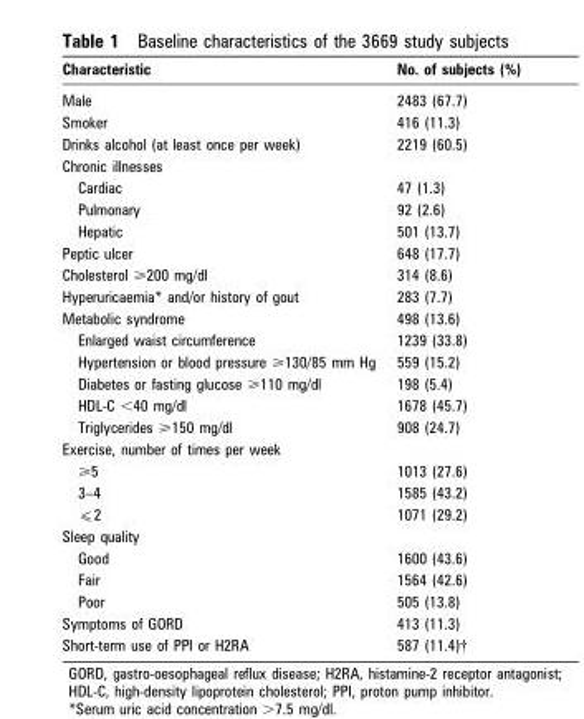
<table><thead><tr><td>Characteristic</td><td>No. of subjects (%)</td></tr></thead><tbody><tr><td>Male</td><td>2483 (67.7)</td></tr><tr><td>Smoker</td><td>416 (11.3)</td></tr><tr><td>Drinks alcohol (at least once per week)</td><td>2219 (60.5)</td></tr><tr><td colspan="2">Chronic illnesses</td></tr><tr><td>Cardiac</td><td>47 (1.3)</td></tr><tr><td>Pulmonary</td><td>92 (2.6)</td></tr><tr><td>Hepatic</td><td>501 (13.7)</td></tr><tr><td>Peptic ulcer</td><td>648 (17.7)</td></tr><tr><td>Cholesterol &gt;200 mg/dl</td><td>314 (8.6)</td></tr><tr><td>Hyperuricaemia* and/or history of gout</td><td>283 (7.7)</td></tr><tr><td>Metabolic syndrome</td><td>498 (13.6)</td></tr><tr><td>Enlarged waist circumference</td><td>1239 (33.8)</td></tr><tr><td>Hypertension or blood pressure &gt;130/85 mm Hg</td><td>559 (15.2)</td></tr><tr><td>Diabetes or fasting glucose &gt;110 mg/dl</td><td>198 (5.4)</td></tr><tr><td>HDL-C &lt;40 mg/dl</td><td>1678 (45.7)</td></tr><tr><td>Triglycerides &gt;150 mg/dl</td><td>908 (24.7)</td></tr><tr><td colspan="2">Exercise, number of times per week</td></tr><tr><td>&gt;5</td><td>1013 (27.6)</td></tr><tr><td>3–4</td><td>1585 (43.2)</td></tr><tr><td>⩽2</td><td>1071 (29.2)</td></tr><tr><td colspan="2">Sleep quality</td></tr><tr><td>Good</td><td>1600 (43.6)</td></tr><tr><td>Fair</td><td>1564 (42.6)</td></tr><tr><td>Poor</td><td>505 (13.8)</td></tr><tr><td>Symptoms of GORD</td><td>413 (11.3)</td></tr><tr><td>Short-term use of PPI or H2RA</td><td>587 (11.4)†</td></tr></tbody></table>